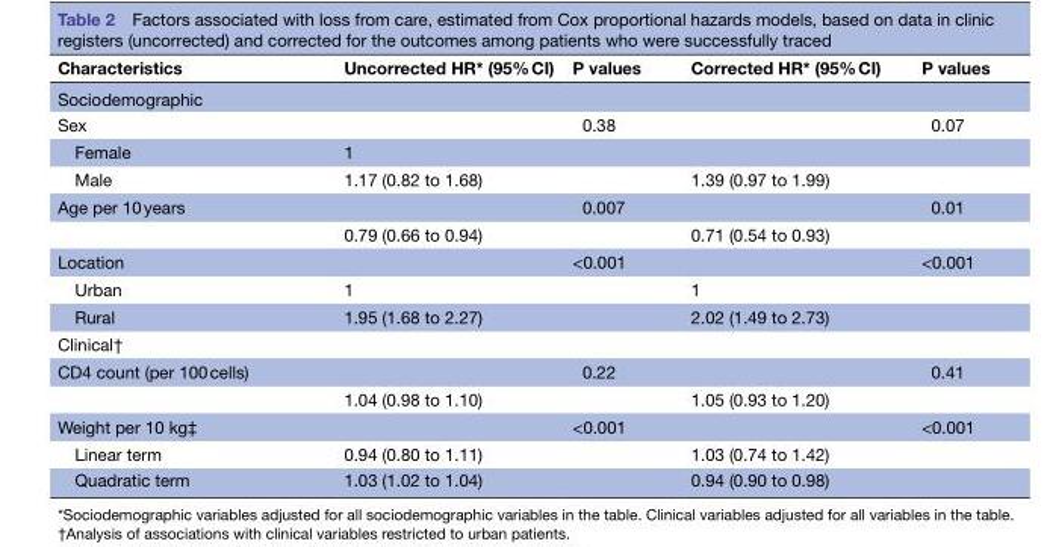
<table><thead><tr><td>Characteristics</td><td>Uncorrected HR* (95% CI)</td><td>P values</td><td>Corrected HR* (95% CI)</td><td>P values</td></tr></thead><tbody><tr><td colspan="5">Sociodemographic</td></tr><tr><td>Sex</td><td></td><td>0.38</td><td></td><td>0.07</td></tr><tr><td>Female</td><td>1</td><td></td><td></td><td></td></tr><tr><td>Male</td><td>1.17 (0.82 to 1.68)</td><td></td><td>1.39 (0.97 to 1.99)</td><td></td></tr><tr><td rowspan="2">Age per 10 years</td><td></td><td>0.007</td><td></td><td>0.01</td></tr><tr><td>0.79 (0.66 to 0.94)</td><td></td><td>0.71 (0.54 to 0.93)</td><td></td></tr><tr><td>Location</td><td></td><td>&lt;0.001</td><td></td><td>&lt;0.001</td></tr><tr><td>Urban</td><td>1</td><td></td><td>1</td><td></td></tr><tr><td>Rural</td><td>1.95 (1.68 to 2.27)</td><td></td><td>2.02 (1.49 to 2.73)</td><td></td></tr><tr><td colspan="5">Clinical†</td></tr><tr><td rowspan="2">CD4 count (per 100 cells)</td><td></td><td>0.22</td><td></td><td>0.41</td></tr><tr><td>1.04 (0.98 to 1.10)</td><td></td><td>1.05 (0.93 to 1.20)</td><td></td></tr><tr><td>Weight per 10 kg‡</td><td></td><td>&lt;0.001</td><td></td><td>&lt;0.001</td></tr><tr><td>Linear term</td><td>0.94 (0.80 to 1.11)</td><td></td><td>1.03 (0.74 to 1.42)</td><td></td></tr><tr><td>Quadratic term</td><td>1.03 (1.02 to 1.04)</td><td></td><td>0.94 (0.90 to 0.98)</td><td></td></tr></tbody></table>